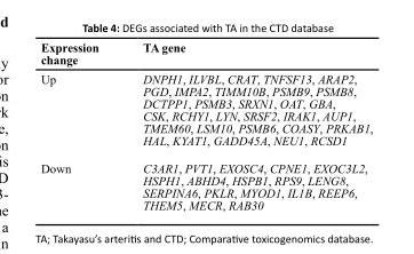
<table><thead><tr><td>Expression change</td><td>TA gene</td></tr></thead><tbody><tr><td>Up</td><td>DNPH1, ILVBL, CRAT, TNFSF13, ARAP2, PGD, IMPA2, TIMM10B, PSMB9, PSMB8, DCTPP1, PSMB3, SRXN1, OAT, GBA, CSK, RCHY1, LYN, SRSF2, IRAK1, AUP1, TMEM60, LSM10, PSMB6, COASY, PRKAB1, HAL, KYAT1, GADD45A, NEU1, RCSD1</td></tr><tr><td>Down</td><td>C3AR1, PVT1, EXOSC4, CPNE1, EXOC3L2, HSPH1, ABHD4, HSPB1, RPS9, LENG8, SERPINA6, PKLR, MYOD1, IL1B, REEP6, THEM5, MECR, RAB30</td></tr></tbody></table>